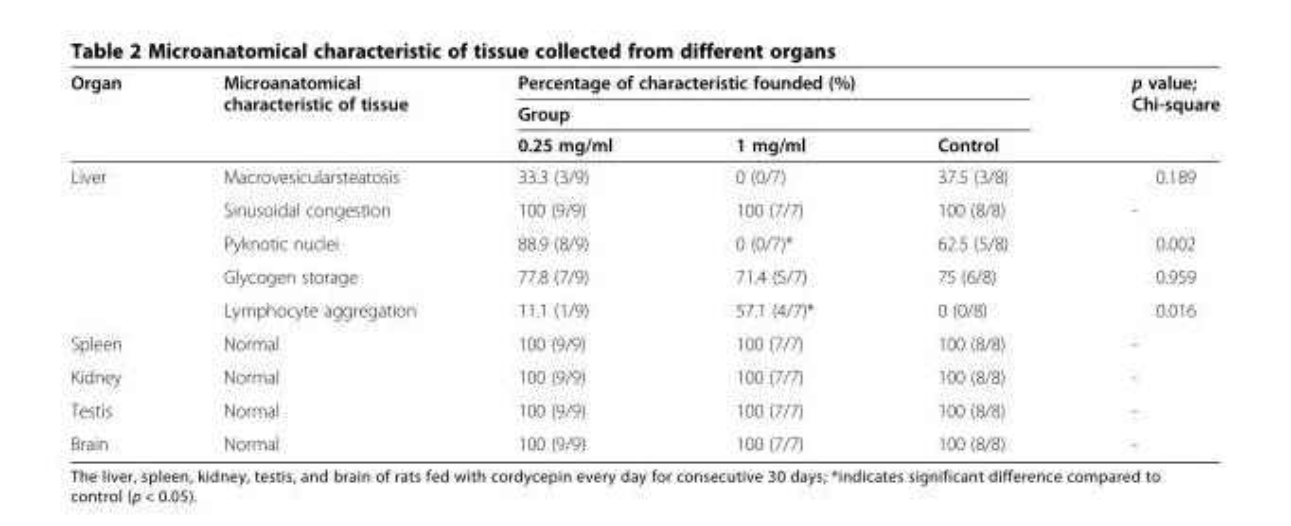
<table><thead><tr><td rowspan="3">Organ</td><td rowspan="3">Microanatomical characteristic of tissue</td><td rowspan="2" colspan="3">Percentage of characteristic founded (%) Group</td><td rowspan="3">p value; Chi-square</td></tr><tr></tr><tr><td>0.25 mg/ml</td><td>1 mg/ml</td><td>Control</td></tr></thead><tbody><tr><td rowspan="5">Liver</td><td>Macrovesicularsteatosis</td><td>33.3 (3/9)</td><td>0 (0/7)</td><td>37.5 (3/8)</td><td>0.189</td></tr><tr><td>Sinusoidal congestion</td><td>100 (9/9)</td><td>100 (7/7)</td><td>100 (8/8)</td><td>-</td></tr><tr><td>Pyknotic nuclei</td><td>88.9 (8/9)</td><td>0 (0/7)*</td><td>62.5 (5/8)</td><td>0.002</td></tr><tr><td>Glycogen storage</td><td>77.8 (7/9)</td><td>71.4 (5/7)</td><td>75 (6/8)</td><td>0.959</td></tr><tr><td>Lymphocyte aggregation</td><td>11.1 (1/9)</td><td>57.1 (4/7)*</td><td>0 (0/8)</td><td>0.016</td></tr><tr><td>Spleen</td><td>Normal</td><td>100 (9/9)</td><td>100 (7/7)</td><td>100 (8/8)</td><td>-</td></tr><tr><td>Kidney</td><td>Normal</td><td>100 (9/9)</td><td>100 (7/7)</td><td>100 (8/8)</td><td>-</td></tr><tr><td>Testis</td><td>Normal</td><td>100 (9/9)</td><td>100 (7/7)</td><td>100 (8/8)</td><td>-</td></tr><tr><td>Brain</td><td>Normal</td><td>100 (9/9)</td><td>100 (7/7)</td><td>100 (8/8)</td><td>-</td></tr></tbody></table>